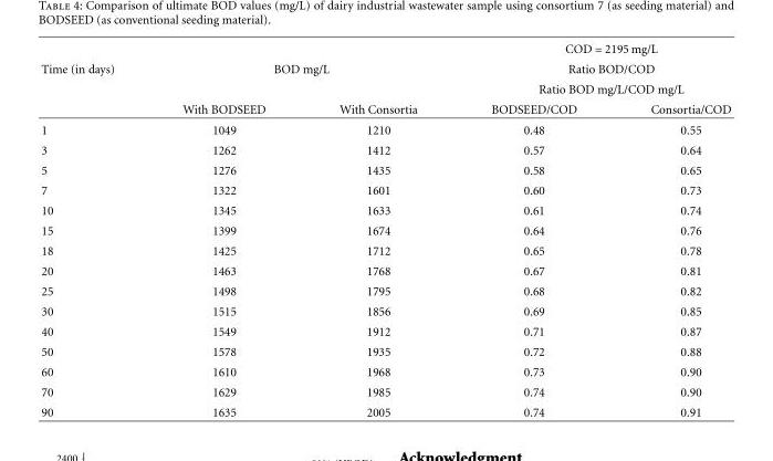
<table><thead><tr><td rowspan="4">Time (in days)</td><td></td><td></td><td rowspan="3" colspan="2">COD = 2195 mg/L Ratio BOD/COD Ratio BOD mg/L/COD mg/L</td></tr><tr><td colspan="2">BOD mg/L</td></tr><tr><td rowspan="2">With BODSEED</td><td rowspan="2">With Consortia</td></tr><tr><td>BODSEED/COD</td><td>Consortia/COD</td></tr></thead><tbody><tr><td>1</td><td>1049</td><td>1210</td><td>0.48</td><td>0.55</td></tr><tr><td>3</td><td>1262</td><td>1412</td><td>0.57</td><td>0.64</td></tr><tr><td>5</td><td>1276</td><td>1435</td><td>0.58</td><td>0.65</td></tr><tr><td>7</td><td>1322</td><td>1601</td><td>0.60</td><td>0.73</td></tr><tr><td>10</td><td>1345</td><td>1633</td><td>0.61</td><td>0.74</td></tr><tr><td>15</td><td>1399</td><td>1674</td><td>0.64</td><td>0.76</td></tr><tr><td>18</td><td>1425</td><td>1712</td><td>0.65</td><td>0.78</td></tr><tr><td>20</td><td>1463</td><td>1768</td><td>0.67</td><td>0.81</td></tr><tr><td>25</td><td>1498</td><td>1795</td><td>0.68</td><td>0.82</td></tr><tr><td>30</td><td>1515</td><td>1856</td><td>0.69</td><td>0.85</td></tr><tr><td>40</td><td>1549</td><td>1912</td><td>0.71</td><td>0.87</td></tr><tr><td>50</td><td>1578</td><td>1935</td><td>0.72</td><td>0.88</td></tr><tr><td>60</td><td>1610</td><td>1968</td><td>0.73</td><td>0.90</td></tr><tr><td>70</td><td>1629</td><td>1985</td><td>0.74</td><td>0.90</td></tr><tr><td>90</td><td>1635</td><td>2005</td><td>0.74</td><td>0.91</td></tr></tbody></table>